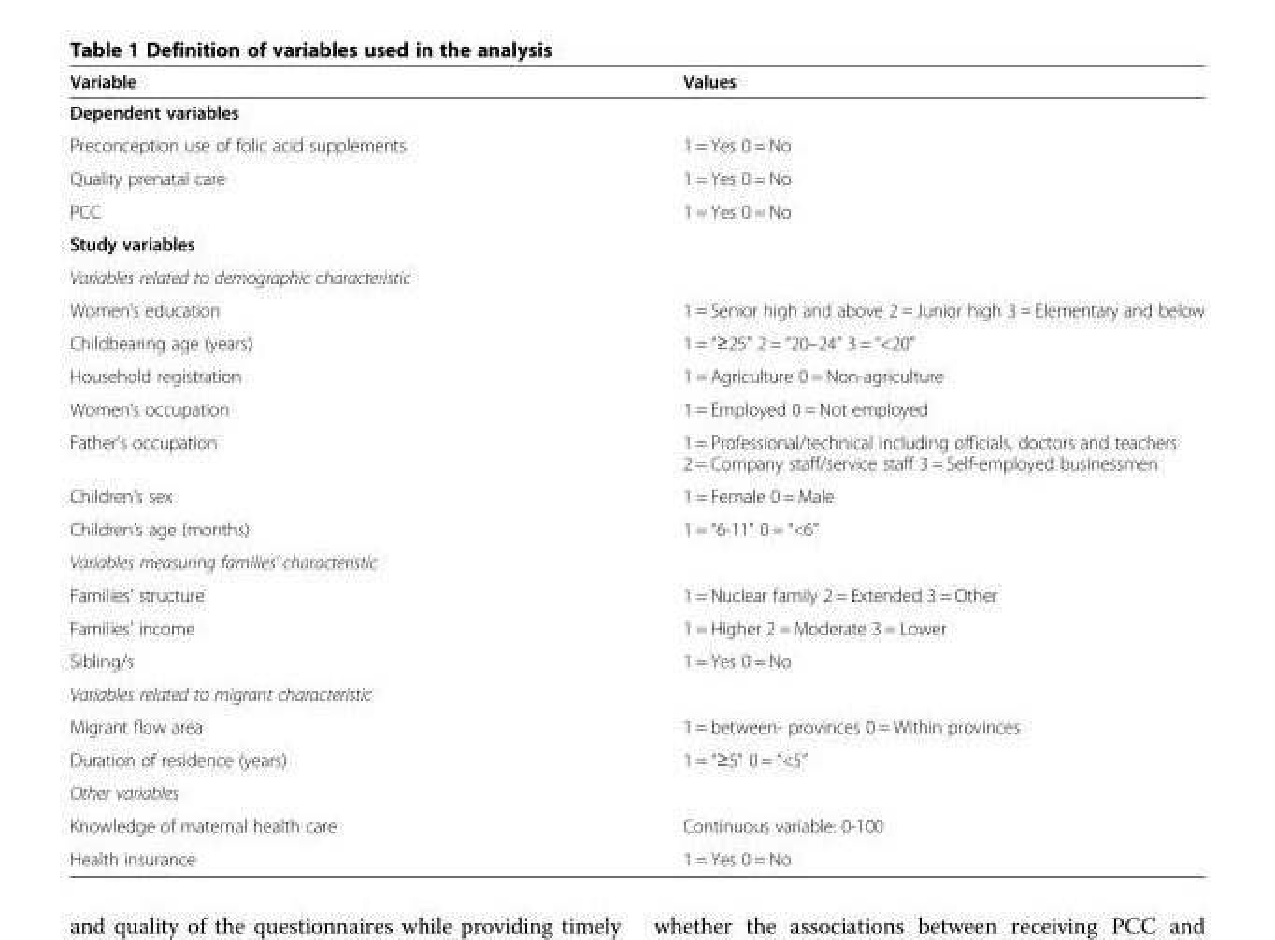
<table><thead><tr><td>Variable</td><td>Values</td></tr></thead><tbody><tr><td colspan="2">Dependent variables</td></tr><tr><td>Preconception use of folic acid supplements</td><td>1 = Yes 0 = No</td></tr><tr><td>Quality prenatal care</td><td>1 = Yes 0 = No</td></tr><tr><td>PCC</td><td>1 = Yes 0 = No</td></tr><tr><td colspan="2">Study variables</td></tr><tr><td colspan="2">Variables related to demographic characteristic</td></tr><tr><td>Women’s education</td><td>1 = Senior high and above 2 = Junior high 3 = Elementary and below</td></tr><tr><td>Childbearing age (years)</td><td>1 = “≥25” 2 = “20–24” 3 = “&lt;20”</td></tr><tr><td>Household registration</td><td>1 = Agriculture 0 = Non-agriculture</td></tr><tr><td>Women’s occupation</td><td>1 = Employed 0 = Not employed</td></tr><tr><td>Father’s occupation</td><td>1 = Professional/technical including officials, doctors and teachers 2 = Company staff/service staff 3 = Self-employed businessmen</td></tr><tr><td>Children’s sex</td><td>1 = Female 0 = Male</td></tr><tr><td>Children’s age (months)</td><td>1 = “6-11” 0 = “&lt;6”</td></tr><tr><td colspan="2">Variables measuring families’ characteristic</td></tr><tr><td>Families’ structure</td><td>1 = Nuclear family 2 = Extended 3 = Other</td></tr><tr><td>Families’ income</td><td>1 = Higher 2 = Moderate 3 = Lower</td></tr><tr><td>Sibling/s</td><td>1 = Yes 0 = No</td></tr><tr><td colspan="2">Variables related to migrant characteristic</td></tr><tr><td>Migrant flow area</td><td>1 = between- provinces 0 = Within provinces</td></tr><tr><td>Duration of residence (years)</td><td>1 = “≥5” 0 = “&lt;5”</td></tr><tr><td colspan="2">Other variables</td></tr><tr><td>Knowledge of maternal health care</td><td>Continuous variable: 0-100</td></tr><tr><td>Health insurance</td><td>1 = Yes 0 = No</td></tr></tbody></table>